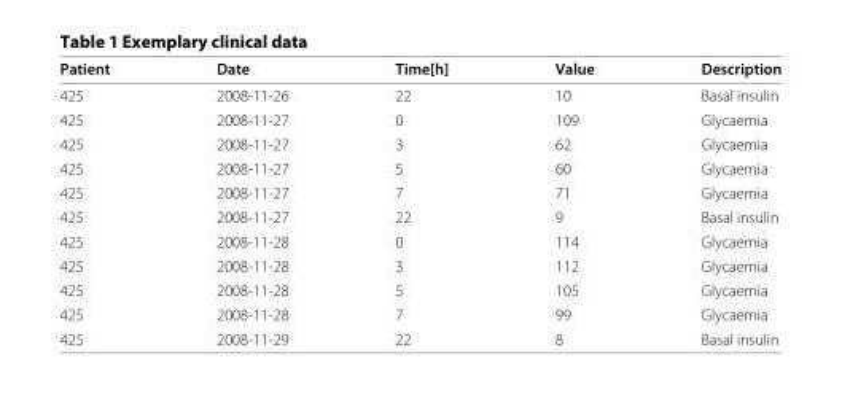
<table><thead><tr><td>Patient</td><td>Date</td><td>Time[h]</td><td>Value</td><td>Description</td></tr></thead><tbody><tr><td>425</td><td>2008-11-26</td><td>22</td><td>10</td><td>Basal insulin</td></tr><tr><td>425</td><td>2008-11-27</td><td>0</td><td>109</td><td>Glycaemia</td></tr><tr><td>425</td><td>2008-11-27</td><td>3</td><td>62</td><td>Glycaemia</td></tr><tr><td>425</td><td>2008-11-27</td><td>5</td><td>60</td><td>Glycaemia</td></tr><tr><td>425</td><td>2008-11-27</td><td>7</td><td>71</td><td>Glycaemia</td></tr><tr><td>425</td><td>2008-11-27</td><td>22</td><td>9</td><td>Basal insulin</td></tr><tr><td>425</td><td>2008-11-28</td><td>0</td><td>114</td><td>Glycaemia</td></tr><tr><td>425</td><td>2008-11-28</td><td>3</td><td>112</td><td>Glycaemia</td></tr><tr><td>425</td><td>2008-11-28</td><td>5</td><td>105</td><td>Glycaemia</td></tr><tr><td>425</td><td>2008-11-28</td><td>7</td><td>99</td><td>Glycaemia</td></tr><tr><td>425</td><td>2008-11-29</td><td>22</td><td>8</td><td>Basal insulin</td></tr></tbody></table>